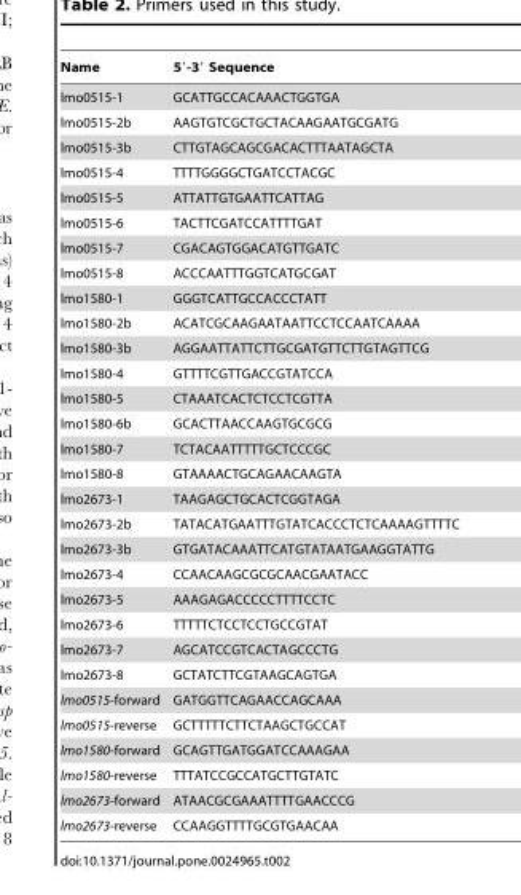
<table><thead><tr><td>Name</td><td>5′-3′ Sequence</td></tr></thead><tbody><tr><td>lmo0515-1</td><td>GCATTGCCACAAACTGGTGA</td></tr><tr><td>lmo0515-2b</td><td>AAGTGTCGCTGCTACAAGAATGCGATG</td></tr><tr><td>lmo0515-3b</td><td>CTTGTAGCAGCGACACTTTAATAGCTA</td></tr><tr><td>lmo0515-4</td><td>TTTTGGGGCTGATCCTACGC</td></tr><tr><td>lmo0515-5</td><td>ATTATTGTGAATTCATTAG</td></tr><tr><td>lmo0515-6</td><td>TACTTCGATCCATTTTGAT</td></tr><tr><td>lmo0515-7</td><td>CGACAGTGGACATGTTGATC</td></tr><tr><td>lmo0515-8</td><td>ACCCAATTTGGTCATGCGAT</td></tr><tr><td>lmo1580-1</td><td>GGGTCATTGCCACCCTATT</td></tr><tr><td>lmo1580-2b</td><td>ACATCGCAAGAATAATTCCTCCAATCAAAA</td></tr><tr><td>lmo1580-3b</td><td>AGGAATTATTCTTGCGATGTTCTTGTAGTTCG</td></tr><tr><td>lmo1580-4</td><td>GTTTTCGTTGACCGTATCCA</td></tr><tr><td>lmo1580-5</td><td>CTAAATCACTCTCCTCGTTA</td></tr><tr><td>lmo1580-6b</td><td>GCACTTAACCAAGTGCGCG</td></tr><tr><td>lmo1580-7</td><td>TCTACAATTTTTGCTCCCGC</td></tr><tr><td>lmo1580-8</td><td>GTAAAACTGCAGAACAAGTA</td></tr><tr><td>lmo2673-1</td><td>TAAGAGCTGCACTCGGTAGA</td></tr><tr><td>lmo2673-2b</td><td>TATACATGAATTTGTATCACCCTCTCAAAAGTTTTC</td></tr><tr><td>lmo2673-3b</td><td>GTGATACAAATTCATGTATAATGAAGGTATTG</td></tr><tr><td>lmo2673-4</td><td>CCAACAAGCGCGCAACGAATACC</td></tr><tr><td>lmo2673-5</td><td>AAAGAGACCCCCTTTTCCTC</td></tr><tr><td>lmo2673-6</td><td>TTTTTCTCCTCCTGCCGTAT</td></tr><tr><td>lmo2673-7</td><td>AGCATCCGTCACTAGCCCTG</td></tr><tr><td>lmo2673-8</td><td>GCTATCTTCGTAAGCAGTGA</td></tr><tr><td>lmo0515-forward</td><td>GATGGTTCAGAACCAGCAAA</td></tr><tr><td>lmo0515-reverse</td><td>GCTTTTTCTTCTAAGCTGCCAT</td></tr><tr><td>lmo1580-forward</td><td>GCAGTTGATGGATCCAAAGAA</td></tr><tr><td>lmo1580-reverse</td><td>TTTATCCGCCATGCTTGTATC</td></tr><tr><td>lmo2673-forward</td><td>ATAACGCGAAATTTTGAACCCG</td></tr><tr><td>lmo2673-reverse</td><td>CCAAGGTTTTGCGTGAACAA</td></tr></tbody></table>